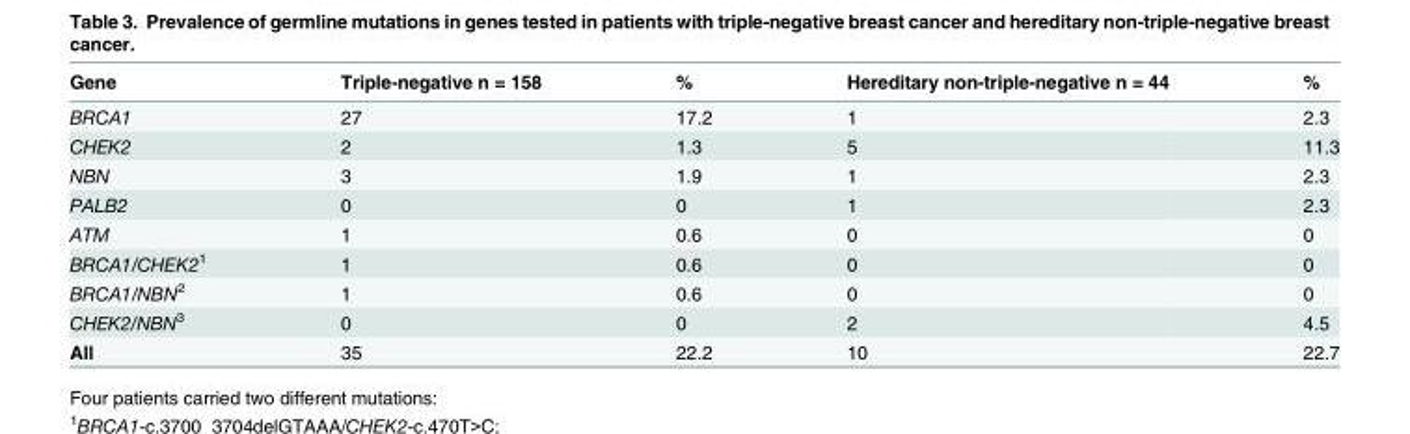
<table><thead><tr><td>Gene</td><td>Triple-negative n = 158</td><td>%</td><td>Hereditary non-triple-negative n = 44</td><td>%</td></tr></thead><tbody><tr><td>BRCA1</td><td>27</td><td>17.2</td><td>1</td><td>2.3</td></tr><tr><td>CHEK2</td><td>2</td><td>1.3</td><td>5</td><td>11.3</td></tr><tr><td>NBN</td><td>3</td><td>1.9</td><td>1</td><td>2.3</td></tr><tr><td>PALB2</td><td>0</td><td>0</td><td>1</td><td>2.3</td></tr><tr><td>ATM</td><td>1</td><td>0.6</td><td>0</td><td>0</td></tr><tr><td>BRCA1/CHEK2<sup>1</sup></td><td>1</td><td>0.6</td><td>0</td><td>0</td></tr><tr><td>BRCA1/NBN<sup>2</sup></td><td>1</td><td>0.6</td><td>0</td><td>0</td></tr><tr><td>CHEK2/NBN<sup>3</sup></td><td>0</td><td>0</td><td>2</td><td>4.5</td></tr><tr><td>All</td><td>35</td><td>22.2</td><td>10</td><td>22.7</td></tr></tbody></table>